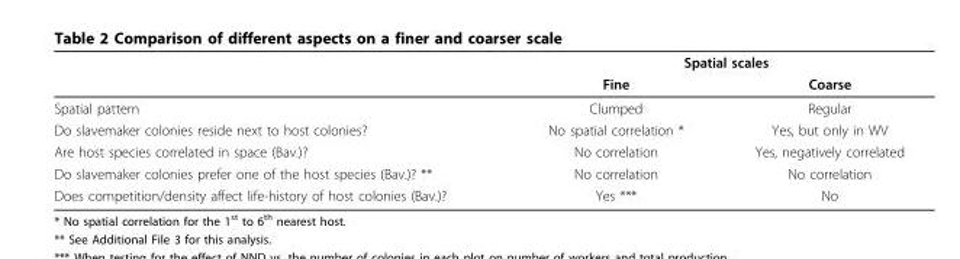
<table><thead><tr><td rowspan="2"></td><td colspan="2">Spatial scales</td></tr><tr><td>Fine</td><td>Coarse</td></tr></thead><tbody><tr><td>Spatial pattern</td><td>Clumped</td><td>Regular</td></tr><tr><td>Do slavemaker colonies reside next to host colonies?</td><td>No spatial correlation *</td><td>Yes, but only in WV</td></tr><tr><td>Are host species correlated in space (Bav.)?</td><td>No correlation</td><td>Yes, negatively correlated</td></tr><tr><td>Do slavemaker colonies prefer one of the host species (Bav.)? **</td><td>No correlation</td><td>No correlation</td></tr><tr><td>Does competition/density affect life-history of host colonies (Bav.)?</td><td>Yes ***</td><td>No</td></tr></tbody></table>